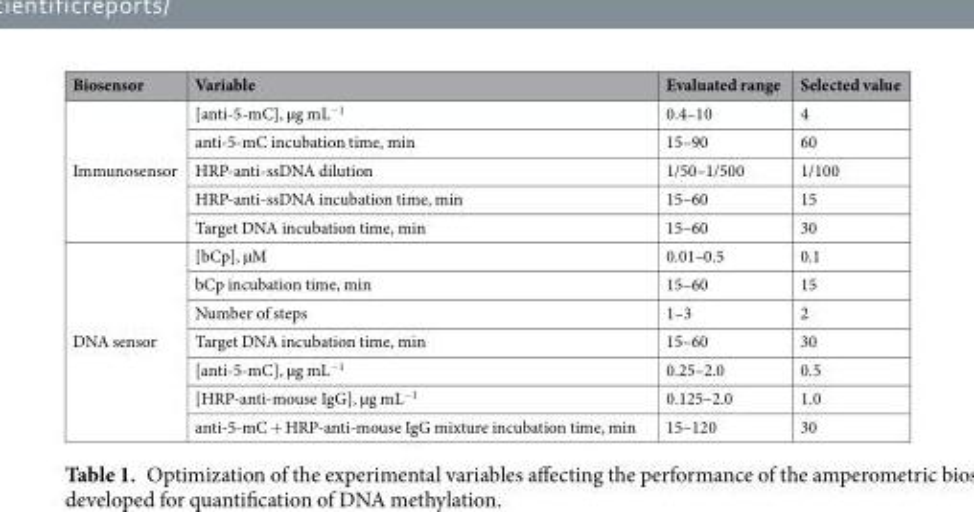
<table><thead><tr><td>Biosensor</td><td>Variable</td><td>Evaluated range</td><td>Selected value</td></tr></thead><tbody><tr><td rowspan="5">Immunosensor</td><td>[anti-5-mC], µg mL<sup>−1</sup></td><td>0.4–10</td><td>4</td></tr><tr><td>anti-5-mC incubation time, min</td><td>15–90</td><td>60</td></tr><tr><td>HRP-anti-ssDNA dilution</td><td>1/50–1/500</td><td>1/100</td></tr><tr><td>HRP-anti-ssDNA incubation time, min</td><td>15–60</td><td>15</td></tr><tr><td>Target DNA incubation time, min</td><td>15–60</td><td>30</td></tr><tr><td rowspan="7">DNA sensor</td><td>[bCp], µM</td><td>0.01–0.5</td><td>0.1</td></tr><tr><td>bCp incubation time, min</td><td>15–60</td><td>15</td></tr><tr><td>Number of steps</td><td>1–3</td><td>2</td></tr><tr><td>Target DNA incubation time, min</td><td>15–60</td><td>30</td></tr><tr><td>[anti-5-mC], µg mL<sup>−1</sup></td><td>0.25–2.0</td><td>0.5</td></tr><tr><td>[HRP-anti-mouse IgG], µg mL<sup>−1</sup></td><td>0.125–2.0</td><td>1.0</td></tr><tr><td>anti-5-mC + HRP-anti-mouse IgG mixture incubation time, min</td><td>15–120</td><td>30</td></tr></tbody></table>